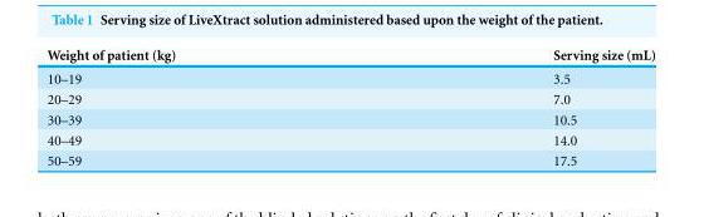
<table><thead><tr><td>Weight of patient (kg)</td><td>Serving size (mL)</td></tr></thead><tbody><tr><td>10–19</td><td>3.5</td></tr><tr><td>20–29</td><td>7.0</td></tr><tr><td>30–39</td><td>10.5</td></tr><tr><td>40–49</td><td>14.0</td></tr><tr><td>50–59</td><td>17.5</td></tr></tbody></table>